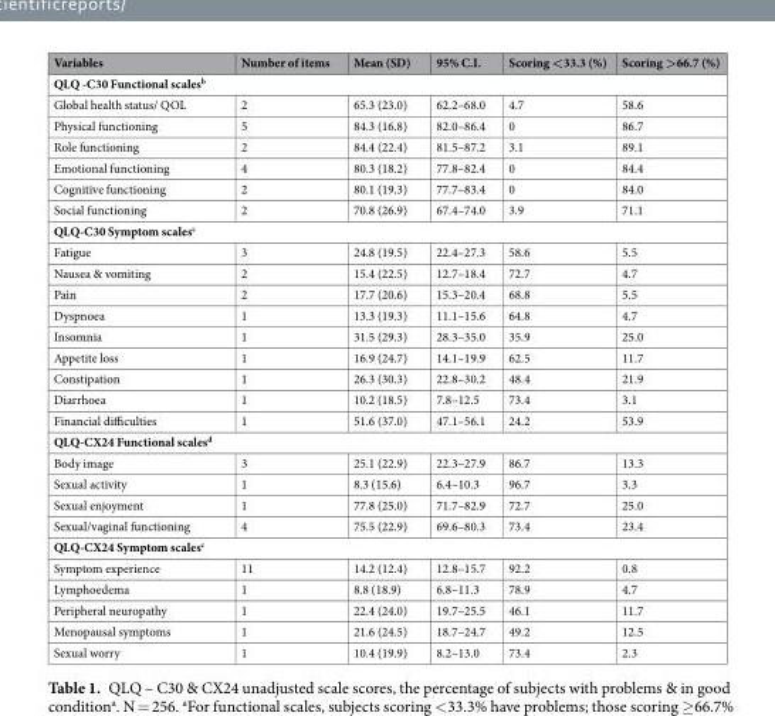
<table><thead><tr><td>Variables</td><td>Number of items</td><td>Mean (SD)</td><td>95% C.I.</td><td>Scoring &lt;33.3 (%)</td><td>Scoring &gt;66.7 (%)</td></tr></thead><tbody><tr><td colspan="6">QLQ -C30 Functional scales<sup>b</sup></td></tr><tr><td>Global health status/ QOL</td><td>2</td><td>65.3 (23.0)</td><td>62.2–68.0</td><td>4.7</td><td>58.6</td></tr><tr><td>Physical functioning</td><td>5</td><td>84.3 (16.8)</td><td>82.0–86.4</td><td>0</td><td>86.7</td></tr><tr><td>Role functioning</td><td>2</td><td>84.4 (22.4)</td><td>81.5–87.2</td><td>3.1</td><td>89.1</td></tr><tr><td>Emotional functioning</td><td>4</td><td>80.3 (18.2)</td><td>77.8–82.4</td><td>0</td><td>84.4</td></tr><tr><td>Cognitive functioning</td><td>2</td><td>80.1 (19.3)</td><td>77.7–83.4</td><td>0</td><td>84.0</td></tr><tr><td>Social functioning</td><td>2</td><td>70.8 (26.9)</td><td>67.4–74.0</td><td>3.9</td><td>71.1</td></tr><tr><td colspan="6">QLQ-C30 Symptom scales<sup>c</sup></td></tr><tr><td>Fatigue</td><td>3</td><td>24.8 (19.5)</td><td>22.4–27.3</td><td>58.6</td><td>5.5</td></tr><tr><td>Nausea &amp; vomiting</td><td>2</td><td>15.4 (22.5)</td><td>12.7–18.4</td><td>72.7</td><td>4.7</td></tr><tr><td>Pain</td><td>2</td><td>17.7 (20.6)</td><td>15.3–20.4</td><td>68.8</td><td>5.5</td></tr><tr><td>Dyspnoea</td><td>1</td><td>13.3 (19.3)</td><td>11.1–15.6</td><td>64.8</td><td>4.7</td></tr><tr><td>Insomnia</td><td>1</td><td>31.5 (29.3)</td><td>28.3–35.0</td><td>35.9</td><td>25.0</td></tr><tr><td>Appetite loss</td><td>1</td><td>16.9 (24.7)</td><td>14.1–19.9</td><td>62.5</td><td>11.7</td></tr><tr><td>Constipation</td><td>1</td><td>26.3 (30.3)</td><td>22.8–30.2</td><td>48.4</td><td>21.9</td></tr><tr><td>Diarrhoea</td><td>1</td><td>10.2 (18.5)</td><td>7.8–12.5</td><td>73.4</td><td>3.1</td></tr><tr><td>Financial difficulties</td><td>1</td><td>51.6 (37.0)</td><td>47.1–56.1</td><td>24.2</td><td>53.9</td></tr><tr><td colspan="6">QLQ-CX24 Functional scales<sup>d</sup></td></tr><tr><td>Body image</td><td>3</td><td>25.1 (22.9)</td><td>22.3–27.9</td><td>86.7</td><td>13.3</td></tr><tr><td>Sexual activity</td><td>1</td><td>8.3 (15.6)</td><td>6.4–10.3</td><td>96.7</td><td>3.3</td></tr><tr><td>Sexual enjoyment</td><td>1</td><td>77.8 (25.0)</td><td>71.7–82.9</td><td>72.7</td><td>25.0</td></tr><tr><td>Sexual/vaginal functioning</td><td>4</td><td>75.5 (22.9)</td><td>69.6–80.3</td><td>73.4</td><td>23.4</td></tr><tr><td colspan="6">QLQ-CX24 Symptom scales<sup>c</sup></td></tr><tr><td>Symptom experience</td><td>11</td><td>14.2 (12.4)</td><td>12.8–15.7</td><td>92.2</td><td>0.8</td></tr><tr><td>Lymphoedema</td><td>1</td><td>8.8 (18.9)</td><td>6.8–11.3</td><td>78.9</td><td>4.7</td></tr><tr><td>Peripheral neuropathy</td><td>1</td><td>22.4 (24.0)</td><td>19.7–25.5</td><td>46.1</td><td>11.7</td></tr><tr><td>Menopausal symptoms</td><td>1</td><td>21.6 (24.5)</td><td>18.7–24.7</td><td>49.2</td><td>12.5</td></tr><tr><td>Sexual worry</td><td>1</td><td>10.4 (19.9)</td><td>8.2–13.0</td><td>73.4</td><td>2.3</td></tr></tbody></table>